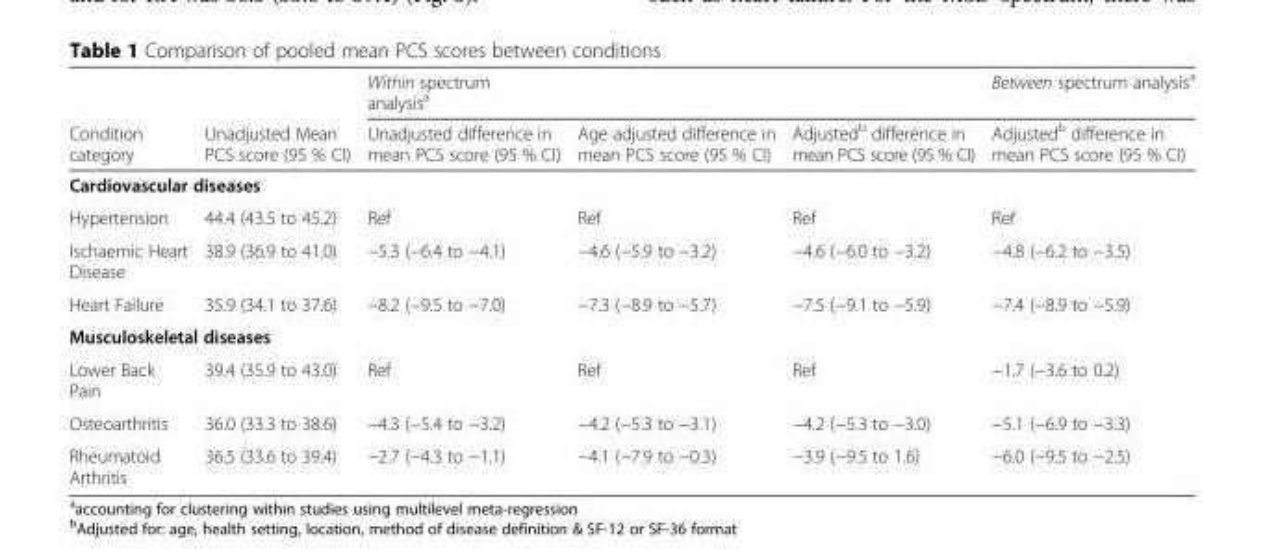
<table><thead><tr><td rowspan="2">Condition category</td><td rowspan="2">Unadjusted Mean PCS score (95 % CI)</td><td colspan="3">Within spectrum analysis<sup>a</sup></td><td rowspan="2">Between spectrum analysis<sup>a</sup> Adjusted<sup>b</sup> difference in mean PCS score (95 % CI)</td></tr><tr><td>Unadjusted difference in mean PCS score (95 % CI)</td><td>Age adjusted difference in mean PCS score (95 % CI)</td><td>Adjusted<sup>b</sup> difference in mean PCS score (95 % CI)</td></tr></thead><tbody><tr><td colspan="6">Cardiovascular diseases</td></tr><tr><td>Hypertension</td><td>44.4 (43.5 to 45.2)</td><td>Ref</td><td>Ref</td><td>Ref</td><td>Ref</td></tr><tr><td>Ischaemic Heart Disease</td><td>38.9 (36.9 to 41.0)</td><td>−5.3 (−6.4 to −4.1)</td><td>−4.6 (−5.9 to −3.2)</td><td>−4.6 (−6.0 to −3.2)</td><td>−4.8 (−6.2 to −3.5)</td></tr><tr><td>Heart Failure</td><td>35.9 (34.1 to 37.6)</td><td>−8.2 (−9.5 to −7.0)</td><td>−7.3 (−8.9 to −5.7)</td><td>−7.5 (−9.1 to −5.9)</td><td>−7.4 (−8.9 to −5.9)</td></tr><tr><td colspan="6">Musculoskeletal diseases</td></tr><tr><td>Lower Back Pain</td><td>39.4 (35.9 to 43.0)</td><td>Ref</td><td>Ref</td><td>Ref</td><td>−1.7 (−3.6 to 0.2)</td></tr><tr><td>Osteoarthritis</td><td>36.0 (33.3 to 38.6)</td><td>−4.3 (−5.4 to −3.2)</td><td>−4.2 (−5.3 to −3.1)</td><td>−4.2 (−5.3 to −3.0)</td><td>−5.1 (−6.9 to −3.3)</td></tr><tr><td>Rheumatoid Arthritis</td><td>36.5 (33.6 to 39.4)</td><td>−2.7 (−4.3 to −1.1)</td><td>−4.1 (−7.9 to −0.3)</td><td>−3.9 (−9.5 to 1.6)</td><td>−6.0 (−9.5 to −2.5)</td></tr></tbody></table>